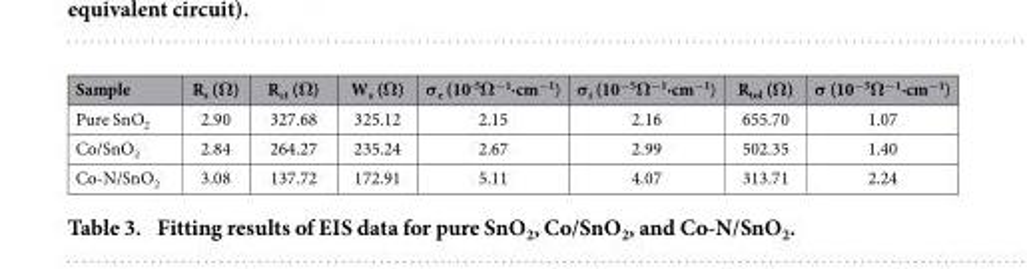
<table><thead><tr><td>Sample</td><td>R<sub>s</sub> (Ω)</td><td>R<sub>ct</sub> (Ω)</td><td>W<sub>s</sub> (Ω)</td><td>σ<sub>e</sub> (10<sup>-5</sup>Ω<sup>−1</sup>·cm<sup>−1</sup>)</td><td>σ<sub>i</sub> (10<sup>−5</sup>Ω<sup>−1</sup>·cm<sup>−1</sup>)</td><td>R<sub>tol</sub> (Ω)</td><td>σ (10<sup>−5</sup>Ω<sup>−1</sup>·cm<sup>−1</sup>)</td></tr></thead><tbody><tr><td>Pure SnO<sub>2</sub></td><td>2.90</td><td>327.68</td><td>325.12</td><td>2.15</td><td>2.16</td><td>655.70</td><td>1.07</td></tr><tr><td>Co/SnO<sub>2</sub></td><td>2.84</td><td>264.27</td><td>235.24</td><td>2.67</td><td>2.99</td><td>502.35</td><td>1.40</td></tr><tr><td>Co-N/SnO<sub>2</sub></td><td>3.08</td><td>137.72</td><td>172.91</td><td>5.11</td><td>4.07</td><td>313.71</td><td>2.24</td></tr></tbody></table>